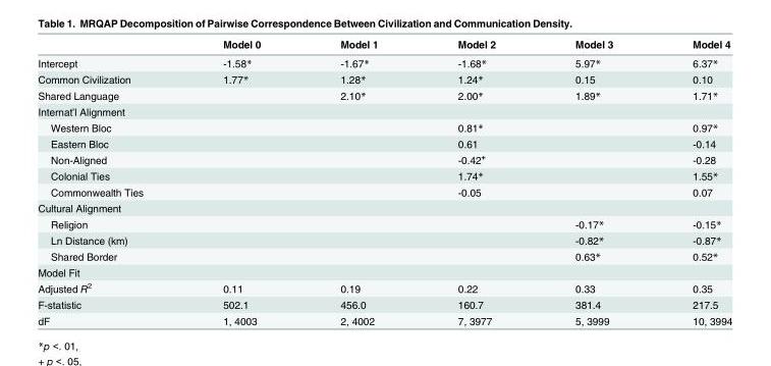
<table><thead><tr><td></td><td>Model 0</td><td>Model 1</td><td>Model 2</td><td>Model 3</td><td>Model 4</td></tr></thead><tbody><tr><td>Intercept</td><td>-1.58*</td><td>-1.67*</td><td>-1.68*</td><td>5.97*</td><td>6.37*</td></tr><tr><td>Common Civilization</td><td>1.77*</td><td>1.28*</td><td>1.24*</td><td>0.15</td><td>0.10</td></tr><tr><td>Shared Language</td><td></td><td>2.10*</td><td>2.00*</td><td>1.89*</td><td>1.71*</td></tr><tr><td colspan="6">Internat’l Alignment</td></tr><tr><td>Western Bloc</td><td></td><td></td><td>0.81*</td><td></td><td>0.97*</td></tr><tr><td>Eastern Bloc</td><td></td><td></td><td>0.61</td><td></td><td>-0.14</td></tr><tr><td>Non-Aligned</td><td></td><td></td><td>-0.42<sup>+</sup></td><td></td><td>-0.28</td></tr><tr><td>Colonial Ties</td><td></td><td></td><td>1.74*</td><td></td><td>1.55*</td></tr><tr><td>Commonwealth Ties</td><td></td><td></td><td>-0.05</td><td></td><td>0.07</td></tr><tr><td colspan="6">Cultural Alignment</td></tr><tr><td>Religion</td><td></td><td></td><td></td><td>-0.17*</td><td>-0.15*</td></tr><tr><td>Ln Distance (km)</td><td></td><td></td><td></td><td>-0.82*</td><td>-0.87*</td></tr><tr><td>Shared Border</td><td></td><td></td><td></td><td>0.63*</td><td>0.52*</td></tr><tr><td colspan="6">Model Fit</td></tr><tr><td>Adjusted R<sup>2</sup></td><td>0.11</td><td>0.19</td><td>0.22</td><td>0.33</td><td>0.35</td></tr><tr><td>F-statistic</td><td>502.1</td><td>456.0</td><td>160.7</td><td>381.4</td><td>217.5</td></tr><tr><td>dF</td><td>1, 4003</td><td>2, 4002</td><td>7, 3977</td><td>5, 3999</td><td>10, 3994</td></tr></tbody></table>